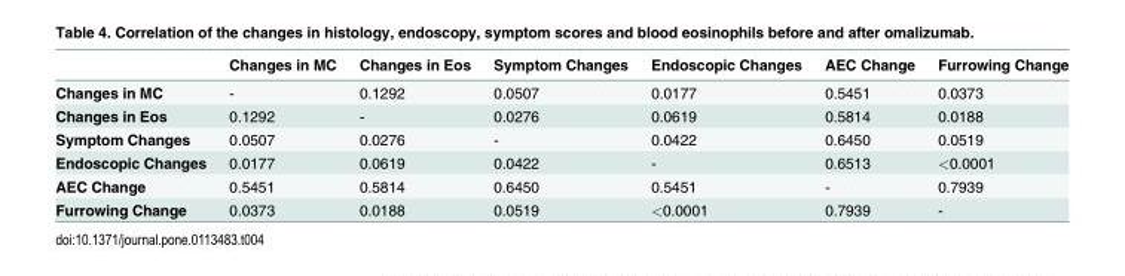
<table><thead><tr><td></td><td>Changes in MC</td><td>Changes in Eos</td><td>Symptom Changes</td><td>Endoscopic Changes</td><td>AEC Change</td><td>Furrowing Change</td></tr></thead><tbody><tr><td>Changes in MC</td><td>-</td><td>0.1292</td><td>0.0507</td><td>0.0177</td><td>0.5451</td><td>0.0373</td></tr><tr><td>Changes in Eos</td><td>0.1292</td><td>-</td><td>0.0276</td><td>0.0619</td><td>0.5814</td><td>0.0188</td></tr><tr><td>Symptom Changes</td><td>0.0507</td><td>0.0276</td><td>-</td><td>0.0422</td><td>0.6450</td><td>0.0519</td></tr><tr><td>Endoscopic Changes</td><td>0.0177</td><td>0.0619</td><td>0.0422</td><td>-</td><td>0.6513</td><td>&lt;0.0001</td></tr><tr><td>AEC Change</td><td>0.5451</td><td>0.5814</td><td>0.6450</td><td>0.5451</td><td>-</td><td>0.7939</td></tr><tr><td>Furrowing Change</td><td>0.0373</td><td>0.0188</td><td>0.0519</td><td>&lt;0.0001</td><td>0.7939</td><td>-</td></tr></tbody></table>